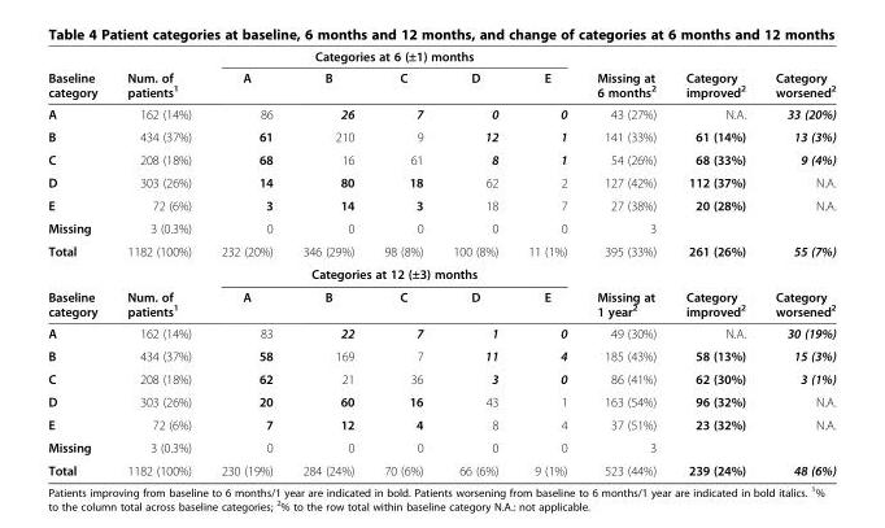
<table><thead><tr><td rowspan="2">Baseline category</td><td rowspan="2">Num. of patients<sup>1</sup></td><td colspan="5">Categories at 6 (±1) months</td><td rowspan="2">Missing at 6 months<sup>2</sup></td><td rowspan="2">Category improved<sup>2</sup></td><td rowspan="2">Category worsened<sup>2</sup></td></tr><tr><td>A</td><td>B</td><td>C</td><td>D</td><td>E</td></tr></thead><tbody><tr><td>A</td><td>162 (14%)</td><td>86</td><td>26</td><td>7</td><td>0</td><td>0</td><td>43 (27%)</td><td>N.A.</td><td>33 (20%)</td></tr><tr><td>B</td><td>434 (37%)</td><td>61</td><td>210</td><td>9</td><td>12</td><td>1</td><td>141 (33%)</td><td>61 (14%)</td><td>13 (3%)</td></tr><tr><td>C</td><td>208 (18%)</td><td>68</td><td>16</td><td>61</td><td>8</td><td>1</td><td>54 (26%)</td><td>68 (33%)</td><td>9 (4%)</td></tr><tr><td>D</td><td>303 (26%)</td><td>14</td><td>80</td><td>18</td><td>62</td><td>2</td><td>127 (42%)</td><td>112 (37%)</td><td>N.A.</td></tr><tr><td>E</td><td>72 (6%)</td><td>3</td><td>14</td><td>3</td><td>18</td><td>7</td><td>27 (38%)</td><td>20 (28%)</td><td>N.A.</td></tr><tr><td>Missing</td><td>3 (0.3%)</td><td>0</td><td>0</td><td>0</td><td>0</td><td>0</td><td>3</td><td></td><td></td></tr><tr><td rowspan="2">Total</td><td>1182 (100%)</td><td>232 (20%)</td><td>346 (29%)</td><td>98 (8%)</td><td>100 (8%)</td><td>11 (1%)</td><td>395 (33%)</td><td>261 (26%)</td><td>55 (7%)</td></tr><tr><td></td><td colspan="5">Categories at 12 (±3) months</td><td></td><td></td><td></td></tr><tr><td>Baseline category</td><td>Num. of patients<sup>1</sup></td><td>A</td><td>B</td><td>C</td><td>D</td><td>E</td><td>Missing at 1 year<sup>2</sup></td><td>Category improved<sup>2</sup></td><td>Category worsened<sup>2</sup></td></tr><tr><td>A</td><td>162 (14%)</td><td>83</td><td>22</td><td>7</td><td>1</td><td>0</td><td>49 (30%)</td><td>N.A.</td><td>30 (19%)</td></tr><tr><td>B</td><td>434 (37%)</td><td>58</td><td>169</td><td>7</td><td>11</td><td>4</td><td>185 (43%)</td><td>58 (13%)</td><td>15 (3%)</td></tr><tr><td>C</td><td>208 (18%)</td><td>62</td><td>21</td><td>36</td><td>3</td><td>0</td><td>86 (41%)</td><td>62 (30%)</td><td>3 (1%)</td></tr><tr><td>D</td><td>303 (26%)</td><td>20</td><td>60</td><td>16</td><td>43</td><td>1</td><td>163 (54%)</td><td>96 (32%)</td><td>N.A.</td></tr><tr><td>E</td><td>72 (6%)</td><td>7</td><td>12</td><td>4</td><td>8</td><td>4</td><td>37 (51%)</td><td>23 (32%)</td><td>N.A.</td></tr><tr><td>Missing</td><td>3 (0.3%)</td><td>0</td><td>0</td><td>0</td><td>0</td><td>0</td><td>3</td><td></td><td></td></tr><tr><td>Total</td><td>1182 (100%)</td><td>230 (19%)</td><td>284 (24%)</td><td>70 (6%)</td><td>66 (6%)</td><td>9 (1%)</td><td>523 (44%)</td><td>239 (24%)</td><td>48 (6%)</td></tr></tbody></table>